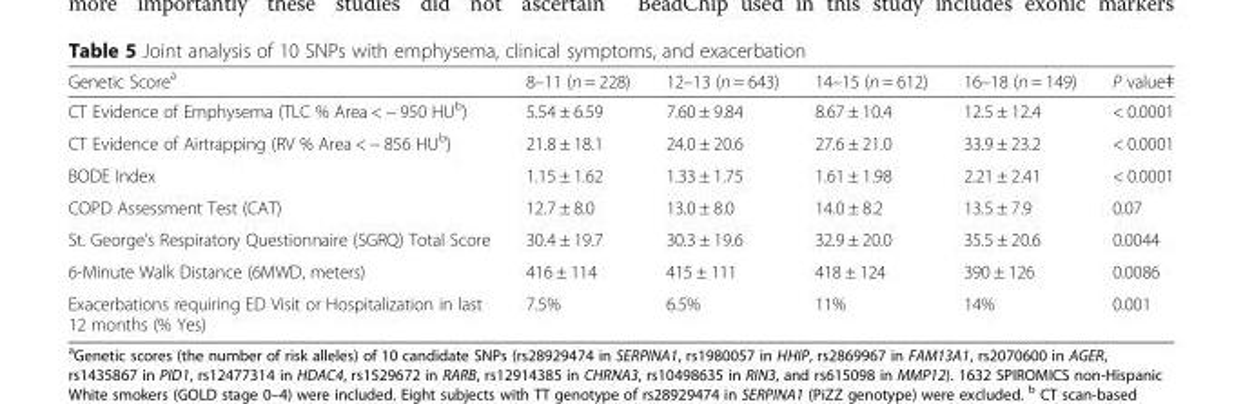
<table><thead><tr><td>Genetic Score<sup>a</sup></td><td>8–11 (n = 228)</td><td>12–13 (n = 643)</td><td>14–15 (n = 612)</td><td>16–18 (n = 149)</td><td>P valueǂ</td></tr></thead><tbody><tr><td>CT Evidence of Emphysema (TLC % Area &lt; − 950 HU<sup>b</sup>)</td><td>5.54 ± 6.59</td><td>7.60 ± 9.84</td><td>8.67 ± 10.4</td><td>12.5 ± 12.4</td><td>&lt; 0.0001</td></tr><tr><td>CT Evidence of Airtrapping (RV % Area &lt; − 856 HU<sup>b</sup>)</td><td>21.8 ± 18.1</td><td>24.0 ± 20.6</td><td>27.6 ± 21.0</td><td>33.9 ± 23.2</td><td>&lt; 0.0001</td></tr><tr><td>BODE Index</td><td>1.15 ± 1.62</td><td>1.33 ± 1.75</td><td>1.61 ± 1.98</td><td>2.21 ± 2.41</td><td>&lt; 0.0001</td></tr><tr><td>COPD Assessment Test (CAT)</td><td>12.7 ± 8.0</td><td>13.0 ± 8.0</td><td>14.0 ± 8.2</td><td>13.5 ± 7.9</td><td>0.07</td></tr><tr><td>St. George’s Respiratory Questionnaire (SGRQ) Total Score</td><td>30.4 ± 19.7</td><td>30.3 ± 19.6</td><td>32.9 ± 20.0</td><td>35.5 ± 20.6</td><td>0.0044</td></tr><tr><td>6-Minute Walk Distance (6MWD, meters)</td><td>416 ± 114</td><td>415 ± 111</td><td>418 ± 124</td><td>390 ± 126</td><td>0.0086</td></tr><tr><td>Exacerbations requiring ED Visit or Hospitalization in last 12 months (% Yes)</td><td>7.5%</td><td>6.5%</td><td>11%</td><td>14%</td><td>0.001</td></tr></tbody></table>